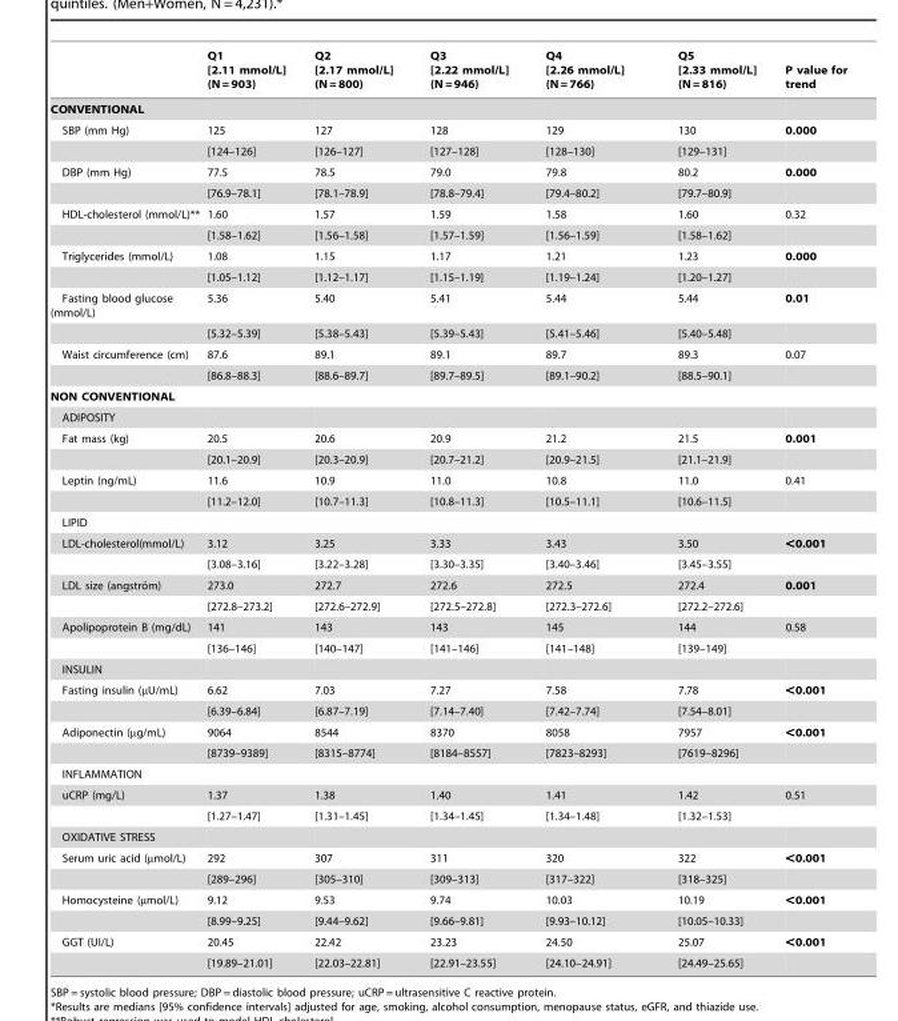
<table><thead><tr><td></td><td>Q1 [2.11 mmol/L] (N = 903)</td><td>Q2 [2.17 mmol/L] (N = 800)</td><td>Q3 [2.22 mmol/L] (N = 946)</td><td>Q4 [2.26 mmol/L] (N = 766)</td><td>Q5 [2.33 mmol/L] (N = 816)</td><td>P value for trend</td></tr></thead><tbody><tr><td colspan="7">CONVENTIONAL</td></tr><tr><td rowspan="2">SBP (mm Hg)</td><td>125</td><td>127</td><td>128</td><td>129</td><td>130</td><td>0.000</td></tr><tr><td>[124–126]</td><td>[126–127]</td><td>[127–128]</td><td>[128–130]</td><td>[129–131]</td><td></td></tr><tr><td rowspan="2">DBP (mm Hg)</td><td>77.5</td><td>78.5</td><td>79.0</td><td>79.8</td><td>80.2</td><td>0.000</td></tr><tr><td>[76.9–78.1]</td><td>[78.1–78.9]</td><td>[78.8–79.4]</td><td>[79.4–80.2]</td><td>[79.7–80.9]</td><td></td></tr><tr><td rowspan="2">HDL-cholesterol (mmol/L)**</td><td>1.60</td><td>1.57</td><td>1.59</td><td>1.58</td><td>1.60</td><td>0.32</td></tr><tr><td>[1.58–1.62]</td><td>[1.56–1.58]</td><td>[1.57–1.59]</td><td>[1.56–1.59]</td><td>[1.58–1.62]</td><td></td></tr><tr><td rowspan="2">Triglycerides (mmol/L)</td><td>1.08</td><td>1.15</td><td>1.17</td><td>1.21</td><td>1.23</td><td>0.000</td></tr><tr><td>[1.05–1.12]</td><td>[1.12–1.17]</td><td>[1.15–1.19]</td><td>[1.19–1.24]</td><td>[1.20–1.27]</td><td></td></tr><tr><td rowspan="2">Fasting blood glucose (mmol/L)</td><td>5.36</td><td>5.40</td><td>5.41</td><td>5.44</td><td>5.44</td><td>0.01</td></tr><tr><td>[5.32–5.39]</td><td>[5.38–5.43]</td><td>[5.39–5.43]</td><td>[5.41–5.46]</td><td>[5.40–5.48]</td><td></td></tr><tr><td rowspan="2">Waist circumference (cm)</td><td>87.6</td><td>89.1</td><td>89.1</td><td>89.7</td><td>89.3</td><td>0.07</td></tr><tr><td>[86.8–88.3]</td><td>[88.6–89.7]</td><td>[89.7–89.5]</td><td>[89.1–90.2]</td><td>[88.5–90.1]</td><td></td></tr><tr><td colspan="7">NON CONVENTIONAL</td></tr><tr><td colspan="7">ADIPOSITY</td></tr><tr><td rowspan="2">Fat mass (kg)</td><td>20.5</td><td>20.6</td><td>20.9</td><td>21.2</td><td>21.5</td><td>0.001</td></tr><tr><td>[20.1–20.9]</td><td>[20.3–20.9]</td><td>[20.7–21.2]</td><td>[20.9–21.5]</td><td>[21.1–21.9]</td><td></td></tr><tr><td rowspan="2">Leptin (ng/mL)</td><td>11.6</td><td>10.9</td><td>11.0</td><td>10.8</td><td>11.0</td><td>0.41</td></tr><tr><td>[11.2–12.0]</td><td>[10.7–11.3]</td><td>[10.8–11.3]</td><td>[10.5–11.1]</td><td>[10.6–11.5]</td><td></td></tr><tr><td colspan="7">LIPID</td></tr><tr><td rowspan="2">LDL-cholesterol(mmol/L)</td><td>3.12</td><td>3.25</td><td>3.33</td><td>3.43</td><td>3.50</td><td>&lt;0.001</td></tr><tr><td>[3.08–3.16]</td><td>[3.22–3.28]</td><td>[3.30–3.35]</td><td>[3.40–3.46]</td><td>[3.45–3.55]</td><td></td></tr><tr><td rowspan="2">LDL size (angstro¨m)</td><td>273.0</td><td>272.7</td><td>272.6</td><td>272.5</td><td>272.4</td><td>0.001</td></tr><tr><td>[272.8–273.2]</td><td>[272.6–272.9]</td><td>[272.5–272.8]</td><td>[272.3–272.6]</td><td>[272.2–272.6]</td><td></td></tr><tr><td rowspan="2">Apolipoprotein B (mg/dL)</td><td>141</td><td>143</td><td>143</td><td>145</td><td>144</td><td>0.58</td></tr><tr><td>[136–146]</td><td>[140–147]</td><td>[141–146]</td><td>[141–148]</td><td>[139–149]</td><td></td></tr><tr><td colspan="7">INSULIN</td></tr><tr><td rowspan="2">Fasting insulin (μU/mL)</td><td>6.62</td><td>7.03</td><td>7.27</td><td>7.58</td><td>7.78</td><td>&lt;0.001</td></tr><tr><td>[6.39–6.84]</td><td>[6.87–7.19]</td><td>[7.14–7.40]</td><td>[7.42–7.74]</td><td>[7.54–8.01]</td><td></td></tr><tr><td rowspan="2">Adiponectin (µg/mL)</td><td>9064</td><td>8544</td><td>8370</td><td>8058</td><td>7957</td><td>&lt;0.001</td></tr><tr><td>[8739–9389]</td><td>[8315–8774]</td><td>[8184–8557]</td><td>[7823–8293]</td><td>[7619–8296]</td><td></td></tr><tr><td colspan="7">INFLAMMATION</td></tr><tr><td rowspan="2">uCRP (mg/L)</td><td>1.37</td><td>1.38</td><td>1.40</td><td>1.41</td><td>1.42</td><td>0.51</td></tr><tr><td>[1.27–1.47]</td><td>[1.31–1.45]</td><td>[1.34–1.45]</td><td>[1.34–1.48]</td><td>[1.32–1.53]</td><td></td></tr><tr><td colspan="7">OXIDATIVE STRESS</td></tr><tr><td rowspan="2">Serum uric acid (µmol/L)</td><td>292</td><td>307</td><td>311</td><td>320</td><td>322</td><td>&lt;0.001</td></tr><tr><td>[289–296]</td><td>[305–310]</td><td>[309–313]</td><td>[317–322]</td><td>[318–325]</td><td></td></tr><tr><td rowspan="2">Homocysteine (µmol/L)</td><td>9.12</td><td>9.53</td><td>9.74</td><td>10.03</td><td>10.19</td><td>&lt;0.001</td></tr><tr><td>[8.99–9.25]</td><td>[9.44–9.62]</td><td>[9.66–9.81]</td><td>[9.93–10.12]</td><td>[10.05–10.33]</td><td></td></tr><tr><td rowspan="2">GGT (UI/L)</td><td>20.45</td><td>22.42</td><td>23.23</td><td>24.50</td><td>25.07</td><td>&lt;0.001</td></tr><tr><td>[19.89–21.01]</td><td>[22.03–22.81]</td><td>[22.91–23.55]</td><td>[24.10–24.91]</td><td>[24.49–25.65]</td><td></td></tr></tbody></table>